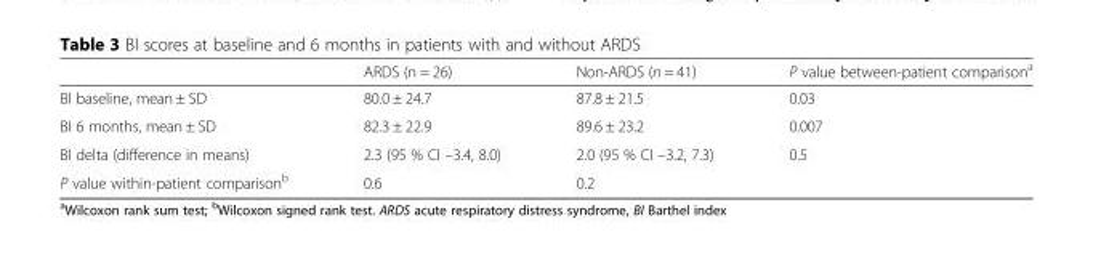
<table><thead><tr><td></td><td>ARDS (n = 26)</td><td>Non-ARDS (n = 41)</td><td>P value between-patient comparison<sup>a</sup></td></tr></thead><tbody><tr><td>BI baseline, mean ± SD</td><td>80.0 ± 24.7</td><td>87.8 ± 21.5</td><td>0.03</td></tr><tr><td>BI 6 months, mean ± SD</td><td>82.3 ± 22.9</td><td>89.6 ± 23.2</td><td>0.007</td></tr><tr><td>BI delta (difference in means)</td><td>2.3 (95 % CI –3.4, 8.0)</td><td>2.0 (95 % CI –3.2, 7.3)</td><td>0.5</td></tr><tr><td>P value within-patient comparison<sup>b</sup></td><td>0.6</td><td>0.2</td><td></td></tr></tbody></table>